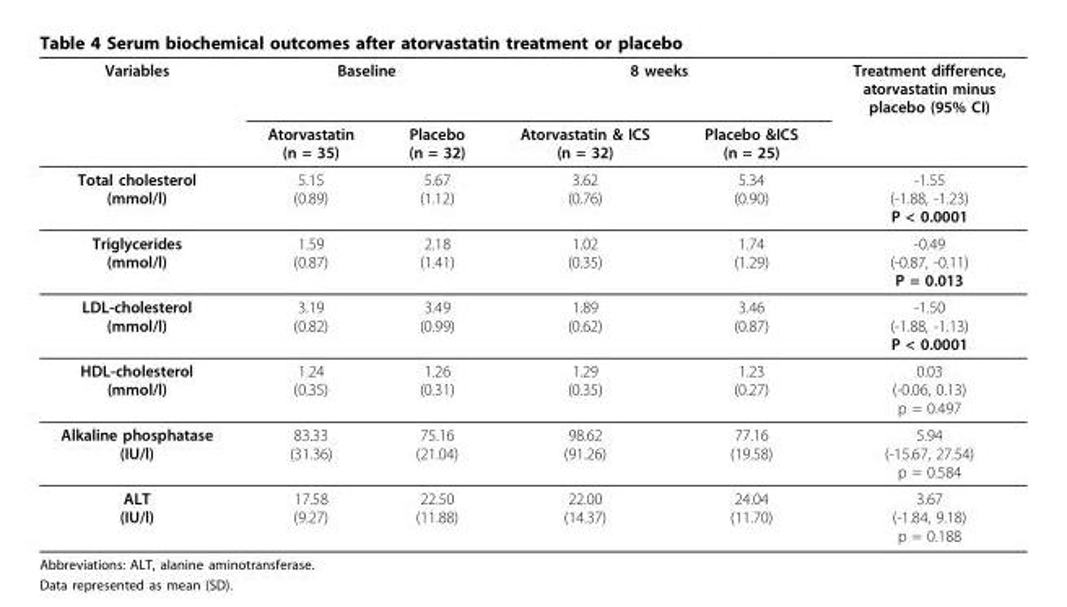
<table><thead><tr><td rowspan="2">Variables</td><td colspan="2">Baseline</td><td colspan="2">8 weeks</td><td rowspan="2">Treatment difference, atorvastatin minus placebo (95% CI)</td></tr><tr><td>Atorvastatin (n = 35)</td><td>Placebo (n = 32)</td><td>Atorvastatin &amp; ICS (n = 32)</td><td>Placebo &amp;ICS (n = 25)</td></tr></thead><tbody><tr><td>Total cholesterol (mmol/l)</td><td>5.15 (0.89)</td><td>5.67 (1.12)</td><td>3.62 (0.76)</td><td>5.34 (0.90)</td><td>-1.55 (-1.88, -1.23) P &lt; 0.0001</td></tr><tr><td>Triglycerides (mmol/l)</td><td>1.59 (0.87)</td><td>2.18 (1.41)</td><td>1.02 (0.35)</td><td>1.74 (1.29)</td><td>-0.49 (-0.87, -0.11) P = 0.013</td></tr><tr><td>LDL-cholesterol (mmol/l)</td><td>3.19 (0.82)</td><td>3.49 (0.99)</td><td>1.89 (0.62)</td><td>3.46 (0.87)</td><td>-1.50 (-1.88, -1.13) P &lt; 0.0001</td></tr><tr><td>HDL-cholesterol (mmol/l)</td><td>1.24 (0.35)</td><td>1.26 (0.31)</td><td>1.29 (0.35)</td><td>1.23 (0.27)</td><td>0.03 (-0.06, 0.13) p = 0.497</td></tr><tr><td>Alkaline phosphatase (IU/l)</td><td>83.33 (31.36)</td><td>75.16 (21.04)</td><td>98.62 (91.26)</td><td>77.16 (19.58)</td><td>5.94 (-15.67, 27.54) p = 0.584</td></tr><tr><td>ALT (IU/l)</td><td>17.58 (9.27)</td><td>22.50 (11.88)</td><td>22.00 (14.37)</td><td>24.04 (11.70)</td><td>3.67 (-1.84, 9.18) p = 0.188</td></tr></tbody></table>